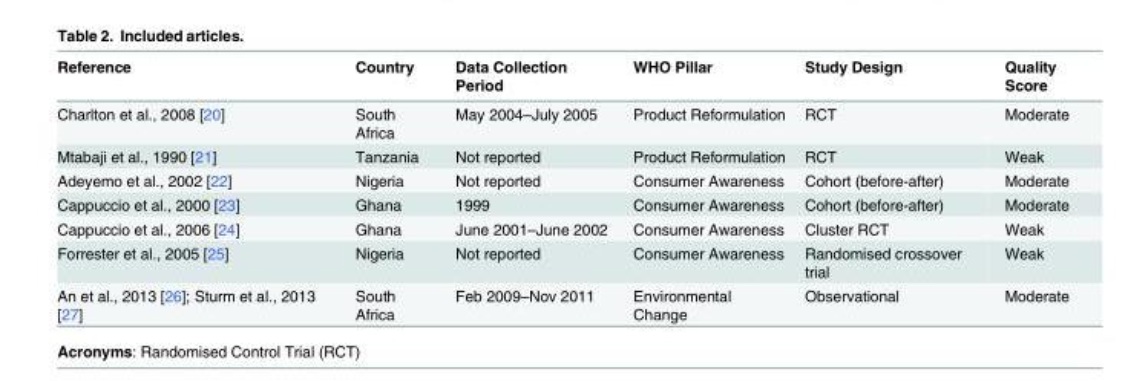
<table><thead><tr><td>Reference</td><td>Country</td><td>Data Collection Period</td><td>WHO Pillar</td><td>Study Design</td><td>Quality Score</td></tr></thead><tbody><tr><td>Charlton et al., 2008 [20]</td><td>South Africa</td><td>May 2004–July 2005</td><td>Product Reformulation</td><td>RCT</td><td>Moderate</td></tr><tr><td>Mtabaji et al., 1990 [21]</td><td>Tanzania</td><td>Not reported</td><td>Product Reformulation</td><td>RCT</td><td>Weak</td></tr><tr><td>Adeyemo et al., 2002 [22]</td><td>Nigeria</td><td>Not reported</td><td>Consumer Awareness</td><td>Cohort (before-after)</td><td>Moderate</td></tr><tr><td>Cappuccio et al., 2000 [23]</td><td>Ghana</td><td>1999</td><td>Consumer Awareness</td><td>Cohort (before-after)</td><td>Moderate</td></tr><tr><td>Cappuccio et al., 2006 [24]</td><td>Ghana</td><td>June 2001–June 2002</td><td>Consumer Awareness</td><td>Cluster RCT</td><td>Weak</td></tr><tr><td>Forrester et al., 2005 [25]</td><td>Nigeria</td><td>Not reported</td><td>Consumer Awareness</td><td>Randomised crossover trial</td><td>Weak</td></tr><tr><td>An et al., 2013 [26]; Sturm et al., 2013 [27]</td><td>South Africa</td><td>Feb 2009–Nov 2011</td><td>Environmental Change</td><td>Observational</td><td>Moderate</td></tr></tbody></table>